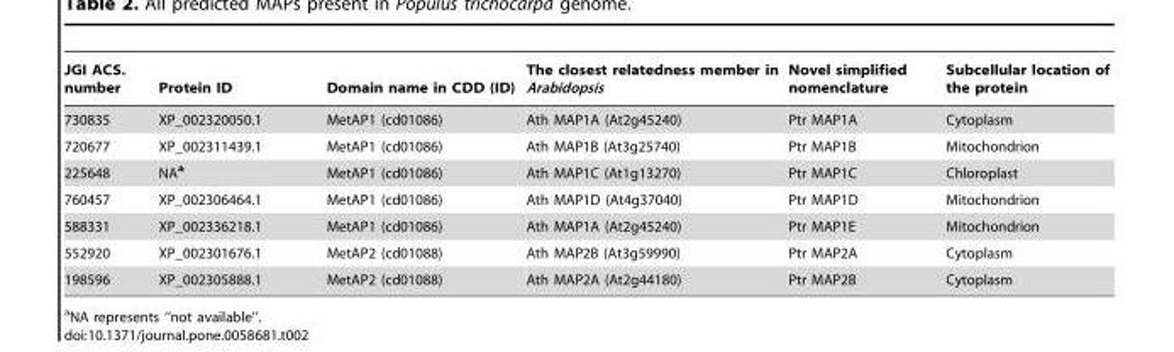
<table><thead><tr><td>JGI ACS. number</td><td>Protein ID</td><td>Domain name in CDD (ID)</td><td>The closest relatedness member in Arabidopsis</td><td>Novel simplified nomenclature</td><td>Subcellular location of the protein</td></tr></thead><tbody><tr><td>730835</td><td>XP_002320050.1</td><td>MetAP1 (cd01086)</td><td>Ath MAP1A (At2g45240)</td><td>Ptr MAP1A</td><td>Cytoplasm</td></tr><tr><td>720677</td><td>XP_002311439.1</td><td>MetAP1 (cd01086)</td><td>Ath MAP1B (At3g25740)</td><td>Ptr MAP1B</td><td>Mitochondrion</td></tr><tr><td>225648</td><td>NA<sup>a</sup></td><td>MetAP1 (cd01086)</td><td>Ath MAP1C (At1g13270)</td><td>Ptr MAP1C</td><td>Chloroplast</td></tr><tr><td>760457</td><td>XP_002306464.1</td><td>MetAP1 (cd01086)</td><td>Ath MAP1D (At4g37040)</td><td>Ptr MAP1D</td><td>Mitochondrion</td></tr><tr><td>588331</td><td>XP_002336218.1</td><td>MetAP1 (cd01086)</td><td>Ath MAP1A (At2g45240)</td><td>Ptr MAP1E</td><td>Mitochondrion</td></tr><tr><td>552920</td><td>XP_002301676.1</td><td>MetAP2 (cd01088)</td><td>Ath MAP2B (At3g59990)</td><td>Ptr MAP2A</td><td>Cytoplasm</td></tr><tr><td>198596</td><td>XP_002305888.1</td><td>MetAP2 (cd01088)</td><td>Ath MAP2A (At2g44180)</td><td>Ptr MAP2B</td><td>Cytoplasm</td></tr></tbody></table>